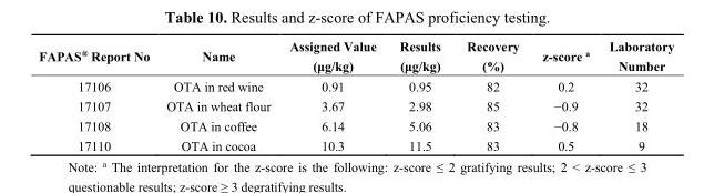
<table><thead><tr><td>FAPAS<sup>®</sup> Report No</td><td>Name</td><td>Assigned Value (μg/kg)</td><td>Results (μg/kg)</td><td>Recovery (%)</td><td>z-score <sup>a</sup></td><td>Laboratory Number</td></tr></thead><tbody><tr><td>17106</td><td>OTA in red wine</td><td>0.91</td><td>0.95</td><td>82</td><td>0.2</td><td>32</td></tr><tr><td>17107</td><td>OTA in wheat flour</td><td>3.67</td><td>2.98</td><td>85</td><td>−0.9</td><td>32</td></tr><tr><td>17108</td><td>OTA in coffee</td><td>6.14</td><td>5.06</td><td>83</td><td>−0.8</td><td>18</td></tr><tr><td>17110</td><td>OTA in cocoa</td><td>10.3</td><td>11.5</td><td>83</td><td>0.5</td><td>9</td></tr></tbody></table>